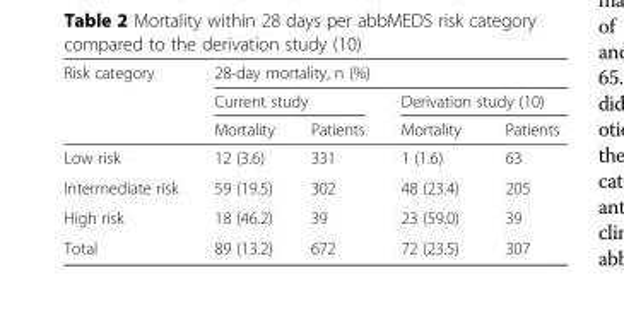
<table><thead><tr><td rowspan="3">Risk category</td><td colspan="4">28-day mortality, n (%)</td></tr><tr><td colspan="2">Current study</td><td colspan="2">Derivation study (10)</td></tr><tr><td>Mortality</td><td>Patients</td><td>Mortality</td><td>Patients</td></tr></thead><tbody><tr><td>Low risk</td><td>12 (3.6)</td><td>331</td><td>1 (1.6)</td><td>63</td></tr><tr><td>Intermediate risk</td><td>59 (19.5)</td><td>302</td><td>48 (23.4)</td><td>205</td></tr><tr><td>High risk</td><td>18 (46.2)</td><td>39</td><td>23 (59.0)</td><td>39</td></tr><tr><td>Total</td><td>89 (13.2)</td><td>672</td><td>72 (23.5)</td><td>307</td></tr></tbody></table>